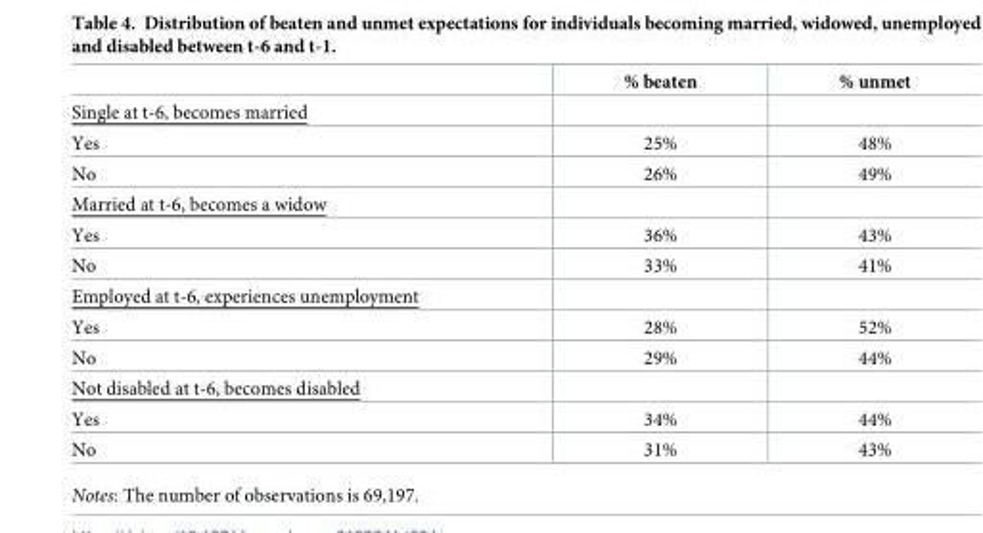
<table><thead><tr><td></td><td>% beaten</td><td>% unmet</td></tr></thead><tbody><tr><td colspan="3">Single at t-6, becomes married</td></tr><tr><td>Yes</td><td>25%</td><td>48%</td></tr><tr><td>No</td><td>26%</td><td>49%</td></tr><tr><td colspan="3">Married at t-6, becomes a widow</td></tr><tr><td>Yes</td><td>36%</td><td>43%</td></tr><tr><td>No</td><td>33%</td><td>41%</td></tr><tr><td colspan="3">Employed at t-6, experiences unemployment</td></tr><tr><td>Yes</td><td>28%</td><td>52%</td></tr><tr><td>No</td><td>29%</td><td>44%</td></tr><tr><td colspan="3">Not disabled at t-6, becomes disabled</td></tr><tr><td>Yes</td><td>34%</td><td>44%</td></tr><tr><td>No</td><td>31%</td><td>43%</td></tr></tbody></table>